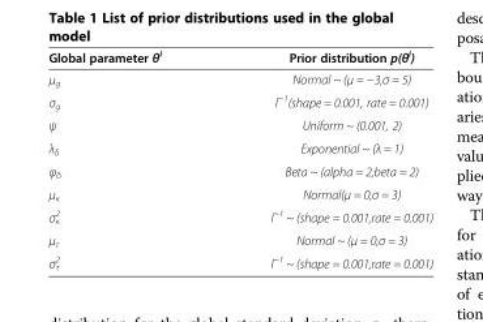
<table><thead><tr><td>Global parameter θ<sup>i</sup></td><td>Prior distribution p(θ<sup>i</sup>)</td></tr></thead><tbody><tr><td>μ<sub>g</sub></td><td>Normal ~ (μ = −3,σ = 5)</td></tr><tr><td>σ<sub>g</sub></td><td>Γ<sup>-1</sup>(shape = 0.001, rate = 0.001)</td></tr><tr><td>ψ</td><td>Uniform ~ (0.001, 2)</td></tr><tr><td>λ<sub>δ</sub></td><td>Exponential ~ (λ = 1)</td></tr><tr><td>φ<sub>δ</sub></td><td>Beta ~ (alpha = 2,beta = 2)</td></tr><tr><td>μ<sub>κ</sub></td><td>Normal(μ = 0,σ = 3)</td></tr><tr><td>σ<sub>κ</sub> <sup>2</sup></td><td>Γ-1 ~ (shape = 0.001,rate = 0.001)</td></tr><tr><td>μ<sub>τ</sub></td><td>Normal ~ (μ = 0,σ = 3)</td></tr><tr><td>σ<sub>τ</sub> <sup>2</sup></td><td>Γ-1 ~ (shape = 0.001,rate = 0.001)</td></tr></tbody></table>